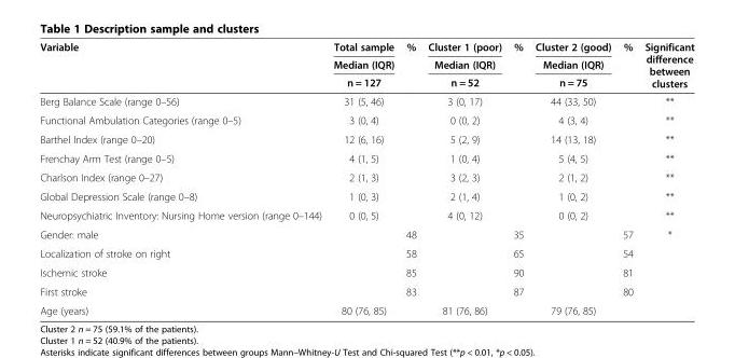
<table><thead><tr><td rowspan="3">Variable</td><td rowspan="3">Total sample Median (IQR) n = 127</td><td rowspan="3">%</td><td rowspan="3">Cluster 1 (poor) Median (IQR) n = 52</td><td rowspan="3">%</td><td rowspan="3">Cluster 2 (good) Median (IQR) n = 75</td><td rowspan="3">%</td><td rowspan="3">Significant difference between clusters</td></tr><tr></tr><tr></tr></thead><tbody><tr><td>Berg Balance Scale (range 0–56)</td><td>31 (5, 46)</td><td></td><td>3 (0, 17)</td><td></td><td>44 (33, 50)</td><td></td><td>**</td></tr><tr><td>Functional Ambulation Categories (range 0–5)</td><td>3 (0, 4)</td><td></td><td>0 (0, 2)</td><td></td><td>4 (3, 4)</td><td></td><td>**</td></tr><tr><td>Barthel Index (range 0–20)</td><td>12 (6, 16)</td><td></td><td>5 (2, 9)</td><td></td><td>14 (13, 18)</td><td></td><td>**</td></tr><tr><td>Frenchay Arm Test (range 0–5)</td><td>4 (1, 5)</td><td></td><td>1 (0, 4)</td><td></td><td>5 (4, 5)</td><td></td><td>**</td></tr><tr><td>Charlson Index (range 0–27)</td><td>2 (1, 3)</td><td></td><td>3 (2, 3)</td><td></td><td>2 (1, 2)</td><td></td><td>**</td></tr><tr><td>Global Depression Scale (range 0–8)</td><td>1 (0, 3)</td><td></td><td>2 (1, 4)</td><td></td><td>1 (0, 2)</td><td></td><td>**</td></tr><tr><td>Neuropsychiatric Inventory: Nursing Home version (range 0–144)</td><td>0 (0, 5)</td><td></td><td>4 (0, 12)</td><td></td><td>0 (0, 2)</td><td></td><td>**</td></tr><tr><td>Gender: male</td><td></td><td>48</td><td></td><td>35</td><td></td><td>57</td><td>*</td></tr><tr><td>Localization of stroke on right</td><td></td><td>58</td><td></td><td>65</td><td></td><td>54</td><td></td></tr><tr><td>Ischemic stroke</td><td></td><td>85</td><td></td><td>90</td><td></td><td>81</td><td></td></tr><tr><td>First stroke</td><td></td><td>83</td><td></td><td>87</td><td></td><td>80</td><td></td></tr><tr><td>Age (years)</td><td>80 (76, 85)</td><td></td><td>81 (76, 86)</td><td></td><td>79 (76, 85)</td><td></td><td></td></tr></tbody></table>